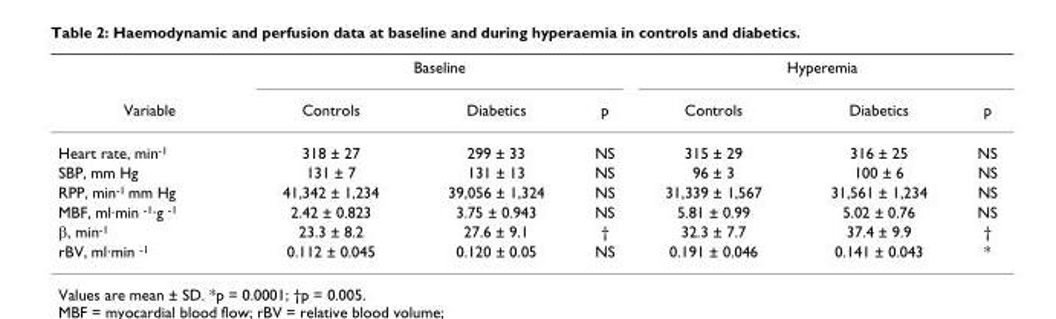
<table><thead><tr><td rowspan="2">Variable</td><td colspan="3">Baseline</td><td colspan="3">Hyperemia</td></tr><tr><td>Controls</td><td>Diabetics</td><td>p</td><td>Controls</td><td>Diabetics</td><td>p</td></tr></thead><tbody><tr><td>Heart rate, min<sup>-1</sup></td><td>318 ± 27</td><td>299 ± 33</td><td>NS</td><td>315 ± 29</td><td>316 ± 25</td><td>NS</td></tr><tr><td>SBP, mm Hg</td><td>131 ± 7</td><td>131 ± 13</td><td>NS</td><td>96 ± 3</td><td>100 ± 6</td><td>NS</td></tr><tr><td>RPP, min<sup>-1</sup> mm Hg</td><td>41,342 ± 1,234</td><td>39,056 ± 1,324</td><td>NS</td><td>31,339 ± 1,567</td><td>31,561 ± 1,234</td><td>NS</td></tr><tr><td>MBF, ml·min <sup>-1</sup>·g <sup>-1</sup></td><td>2.42 ± 0.823</td><td>3.75 ± 0.943</td><td>NS</td><td>5.81 ± 0.99</td><td>5.02 ± 0.76</td><td>NS</td></tr><tr><td>β, min<sup>-1</sup></td><td>23.3 ± 8.2</td><td>27.6 ± 9.1</td><td>†</td><td>32.3 ± 7.7</td><td>37.4 ± 9.9</td><td>†</td></tr><tr><td>rBV, ml·min <sup>-1</sup></td><td>0.112 ± 0.045</td><td>0.120 ± 0.05</td><td>NS</td><td>0.191 ± 0.046</td><td>0.141 ± 0.043</td><td>*</td></tr></tbody></table>